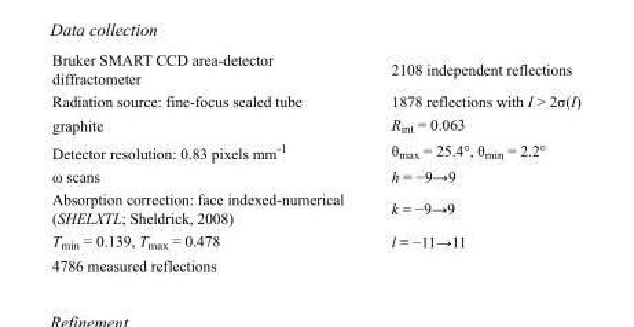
<table><tbody><tr><td>Bruker SMART CCD area-detector diffractometer</td><td>2108 independent reflections</td></tr><tr><td>Radiation source: fine-focus sealed tube</td><td>1878 reflections with I &gt; 2σ(I)</td></tr><tr><td>graphite</td><td>R<sub>int</sub> = 0.063</td></tr><tr><td>Detector resolution: 0.83 pixels mm<sup>-1</sup></td><td>θ<sub>max</sub> = 25.4°, θ<sub>min</sub> = 2.2°</td></tr><tr><td>ω scans</td><td>h = −9→9</td></tr><tr><td>Absorption correction: face indexed-numerical (SHELXTL; Sheldrick, 2008)</td><td>k = −9→9</td></tr><tr><td>T<sub>min</sub> = 0.139, T<sub>max</sub> = 0.478</td><td>l = −11→11</td></tr><tr><td>4786 measured reflections</td><td></td></tr></tbody></table>